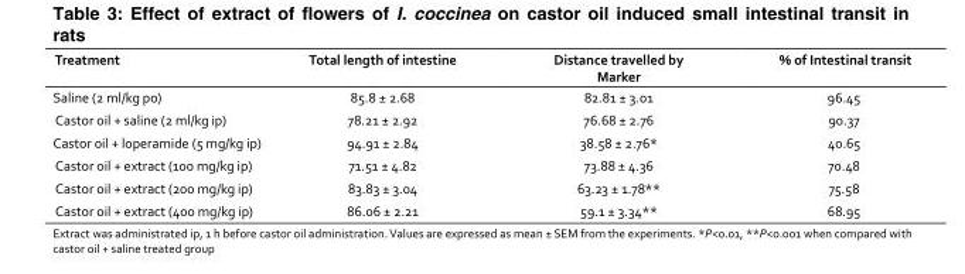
<table><thead><tr><td>Treatment</td><td>Total length of intestine</td><td>Distance travelled by Marker</td><td>% of Intestinal transit</td></tr></thead><tbody><tr><td>Saline (2 ml/kg po)</td><td>85.8 ± 2.68</td><td>82.81 ± 3.01</td><td>96.45</td></tr><tr><td>Castor oil + saline (2 ml/kg ip)</td><td>78.21 ± 2.92</td><td>76.68 ± 2.76</td><td>90.37</td></tr><tr><td>Castor oil + loperamide (5 mg/kg ip)</td><td>94.91 ± 2.84</td><td>38.58 ± 2.76*</td><td>40.65</td></tr><tr><td>Castor oil + extract (100 mg/kg ip)</td><td>71.51 ± 4.82</td><td>73.88 ± 4.36</td><td>70.48</td></tr><tr><td>Castor oil + extract (200 mg/kg ip)</td><td>83.83 ± 3.04</td><td>63.23 ± 1.78**</td><td>75.58</td></tr><tr><td>Castor oil + extract (400 mg/kg ip)</td><td>86.06 ± 2.21</td><td>59.1 ± 3.34**</td><td>68.95</td></tr></tbody></table>